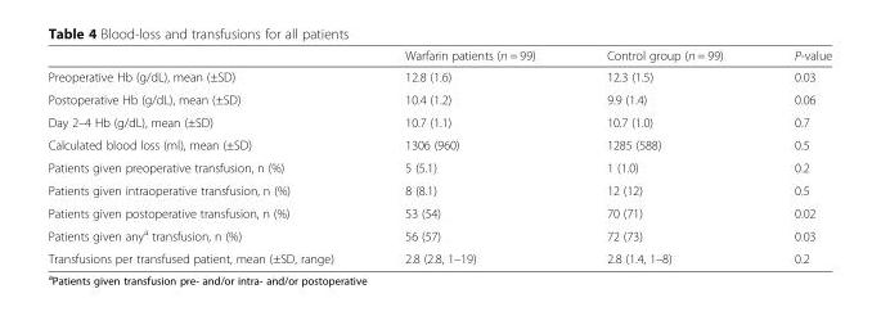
<table><thead><tr><td></td><td>Warfarin patients (n = 99)</td><td>Control group (n = 99)</td><td>P-value</td></tr></thead><tbody><tr><td>Preoperative Hb (g/dL), mean (±SD)</td><td>12.8 (1.6)</td><td>12.3 (1.5)</td><td>0.03</td></tr><tr><td>Postoperative Hb (g/dL), mean (±SD)</td><td>10.4 (1.2)</td><td>9.9 (1.4)</td><td>0.06</td></tr><tr><td>Day 2–4 Hb (g/dL), mean (±SD)</td><td>10.7 (1.1)</td><td>10.7 (1.0)</td><td>0.7</td></tr><tr><td>Calculated blood loss (ml), mean (±SD)</td><td>1306 (960)</td><td>1285 (588)</td><td>0.5</td></tr><tr><td>Patients given preoperative transfusion, n (%)</td><td>5 (5.1)</td><td>1 (1.0)</td><td>0.2</td></tr><tr><td>Patients given intraoperative transfusion, n (%)</td><td>8 (8.1)</td><td>12 (12)</td><td>0.5</td></tr><tr><td>Patients given postoperative transfusion, n (%)</td><td>53 (54)</td><td>70 (71)</td><td>0.02</td></tr><tr><td>Patients given any<sup>a</sup> transfusion, n (%)</td><td>56 (57)</td><td>72 (73)</td><td>0.03</td></tr><tr><td>Transfusions per transfused patient, mean (±SD, range)</td><td>2.8 (2.8, 1–19)</td><td>2.8 (1.4, 1–8)</td><td>0.2</td></tr></tbody></table>